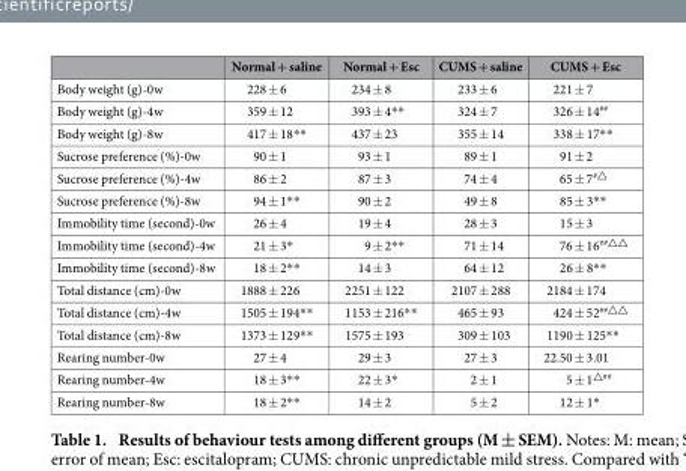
<table><thead><tr><td></td><td>Normal + saline</td><td>Normal + Esc</td><td>CUMS + saline</td><td>CUMS + Esc</td></tr></thead><tbody><tr><td>Body weight (g)-0w</td><td>228 ± 6</td><td>234 ± 8</td><td>233 ± 6</td><td>221 ± 7</td></tr><tr><td>Body weight (g)-4w</td><td>359 ± 12</td><td>393 ± 4* *</td><td>324 ± 7</td><td>326 ± 14<sup>##</sup></td></tr><tr><td>Body weight (g)-8w</td><td>417 ± 18* *</td><td>437 ± 23</td><td>355 ± 14</td><td>338 ± 17* *</td></tr><tr><td>Sucrose preference (%)-0w</td><td>90 ± 1</td><td>93 ± 1</td><td>89 ± 1</td><td>91 ± 2</td></tr><tr><td>Sucrose preference (%)-4w</td><td>86 ± 2</td><td>87 ± 3</td><td>74 ± 4</td><td>65 ± 7<sup>#△</sup></td></tr><tr><td>Sucrose preference (%)-8w</td><td>94 ± 1* *</td><td>90 ± 2</td><td>49 ± 8</td><td>85 ± 3* *</td></tr><tr><td>Immobility time (second)-0w</td><td>26 ± 4</td><td>19 ± 4</td><td>28 ± 3</td><td>15 ± 3</td></tr><tr><td>Immobility time (second)-4w</td><td>21 ± 3*</td><td>9 ± 2* *</td><td>71 ± 14</td><td>76 ± 16<sup>##△△</sup></td></tr><tr><td>Immobility time (second)-8w</td><td>18 ± 2* *</td><td>14 ± 3</td><td>64 ± 12</td><td>26 ± 8* *</td></tr><tr><td>Total distance (cm)-0w</td><td>1888 ± 226</td><td>2251 ± 122</td><td>2107 ± 288</td><td>2184 ± 174</td></tr><tr><td>Total distance (cm)-4w</td><td>1505 ± 194* *</td><td>1153 ± 216* *</td><td>465 ± 93</td><td>424 ± 52<sup>##△△</sup></td></tr><tr><td>Total distance (cm)-8w</td><td>1373 ± 129* *</td><td>1575 ± 193</td><td>309 ± 103</td><td>1190 ± 125* *</td></tr><tr><td>Rearing number-0w</td><td>27 ± 4</td><td>29 ± 3</td><td>27 ± 3</td><td>22.50 ± 3.01</td></tr><tr><td>Rearing number-4w</td><td>18 ± 3* *</td><td>22 ± 3*</td><td>2 ± 1</td><td>5 ± 1<sup>△##</sup></td></tr><tr><td>Rearing number-8w</td><td>18 ± 2* *</td><td>14 ± 2</td><td>5 ± 2</td><td>12 ± 1*</td></tr></tbody></table>